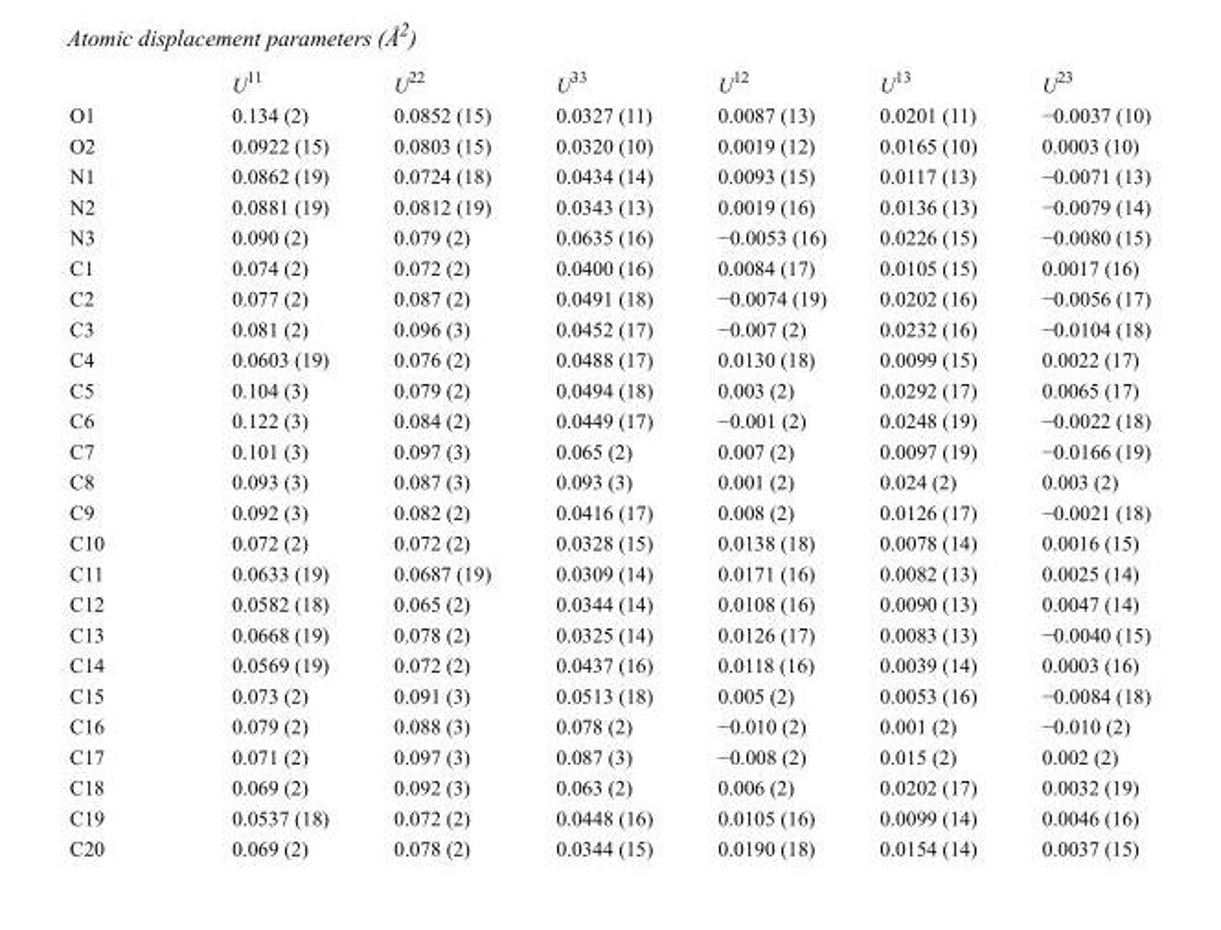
<table><thead><tr><td></td><td>U<sup>11</sup></td><td>U<sup>22</sup></td><td>U<sup>33</sup></td><td>U<sup>12</sup></td><td>U<sup>13</sup></td><td>U<sup>23</sup></td></tr></thead><tbody><tr><td>O1</td><td>0.134 (2)</td><td>0.0852 (15)</td><td>0.0327 (11)</td><td>0.0087 (13)</td><td>0.0201 (11)</td><td>−0.0037 (10)</td></tr><tr><td>O2</td><td>0.0922 (15)</td><td>0.0803 (15)</td><td>0.0320 (10)</td><td>0.0019 (12)</td><td>0.0165 (10)</td><td>0.0003 (10)</td></tr><tr><td>N1</td><td>0.0862 (19)</td><td>0.0724 (18)</td><td>0.0434 (14)</td><td>0.0093 (15)</td><td>0.0117 (13)</td><td>−0.0071 (13)</td></tr><tr><td>N2</td><td>0.0881 (19)</td><td>0.0812 (19)</td><td>0.0343 (13)</td><td>0.0019 (16)</td><td>0.0136 (13)</td><td>−0.0079 (14)</td></tr><tr><td>N3</td><td>0.090 (2)</td><td>0.079 (2)</td><td>0.0635 (16)</td><td>−0.0053 (16)</td><td>0.0226 (15)</td><td>−0.0080 (15)</td></tr><tr><td>C1</td><td>0.074 (2)</td><td>0.072 (2)</td><td>0.0400 (16)</td><td>0.0084 (17)</td><td>0.0105 (15)</td><td>0.0017 (16)</td></tr><tr><td>C2</td><td>0.077 (2)</td><td>0.087 (2)</td><td>0.0491 (18)</td><td>−0.0074 (19)</td><td>0.0202 (16)</td><td>−0.0056 (17)</td></tr><tr><td>C3</td><td>0.081 (2)</td><td>0.096 (3)</td><td>0.0452 (17)</td><td>−0.007 (2)</td><td>0.0232 (16)</td><td>−0.0104 (18)</td></tr><tr><td>C4</td><td>0.0603 (19)</td><td>0.076 (2)</td><td>0.0488 (17)</td><td>0.0130 (18)</td><td>0.0099 (15)</td><td>0.0022 (17)</td></tr><tr><td>C5</td><td>0.104 (3)</td><td>0.079 (2)</td><td>0.0494 (18)</td><td>0.003 (2)</td><td>0.0292 (17)</td><td>0.0065 (17)</td></tr><tr><td>C6</td><td>0.122 (3)</td><td>0.084 (2)</td><td>0.0449 (17)</td><td>−0.001 (2)</td><td>0.0248 (19)</td><td>−0.0022 (18)</td></tr><tr><td>C7</td><td>0.101 (3)</td><td>0.097 (3)</td><td>0.065 (2)</td><td>0.007 (2)</td><td>0.0097 (19)</td><td>−0.0166 (19)</td></tr><tr><td>C8</td><td>0.093 (3)</td><td>0.087 (3)</td><td>0.093 (3)</td><td>0.001 (2)</td><td>0.024 (2)</td><td>0.003 (2)</td></tr><tr><td>C9</td><td>0.092 (3)</td><td>0.082 (2)</td><td>0.0416 (17)</td><td>0.008 (2)</td><td>0.0126 (17)</td><td>−0.0021 (18)</td></tr><tr><td>C10</td><td>0.072 (2)</td><td>0.072 (2)</td><td>0.0328 (15)</td><td>0.0138 (18)</td><td>0.0078 (14)</td><td>0.0016 (15)</td></tr><tr><td>C11</td><td>0.0633 (19)</td><td>0.0687 (19)</td><td>0.0309 (14)</td><td>0.0171 (16)</td><td>0.0082 (13)</td><td>0.0025 (14)</td></tr><tr><td>C12</td><td>0.0582 (18)</td><td>0.065 (2)</td><td>0.0344 (14)</td><td>0.0108 (16)</td><td>0.0090 (13)</td><td>0.0047 (14)</td></tr><tr><td>C13</td><td>0.0668 (19)</td><td>0.078 (2)</td><td>0.0325 (14)</td><td>0.0126 (17)</td><td>0.0083 (13)</td><td>−0.0040 (15)</td></tr><tr><td>C14</td><td>0.0569 (19)</td><td>0.072 (2)</td><td>0.0437 (16)</td><td>0.0118 (16)</td><td>0.0039 (14)</td><td>0.0003 (16)</td></tr><tr><td>C15</td><td>0.073 (2)</td><td>0.091 (3)</td><td>0.0513 (18)</td><td>0.005 (2)</td><td>0.0053 (16)</td><td>−0.0084 (18)</td></tr><tr><td>C16</td><td>0.079 (2)</td><td>0.088 (3)</td><td>0.078 (2)</td><td>−0.010 (2)</td><td>0.001 (2)</td><td>−0.010 (2)</td></tr><tr><td>C17</td><td>0.071 (2)</td><td>0.097 (3)</td><td>0.087 (3)</td><td>−0.008 (2)</td><td>0.015 (2)</td><td>0.002 (2)</td></tr><tr><td>C18</td><td>0.069 (2)</td><td>0.092 (3)</td><td>0.063 (2)</td><td>0.006 (2)</td><td>0.0202 (17)</td><td>0.0032 (19)</td></tr><tr><td>C19</td><td>0.0537 (18)</td><td>0.072 (2)</td><td>0.0448 (16)</td><td>0.0105 (16)</td><td>0.0099 (14)</td><td>0.0046 (16)</td></tr><tr><td>C20</td><td>0.069 (2)</td><td>0.078 (2)</td><td>0.0344 (15)</td><td>0.0190 (18)</td><td>0.0154 (14)</td><td>0.0037 (15)</td></tr></tbody></table>